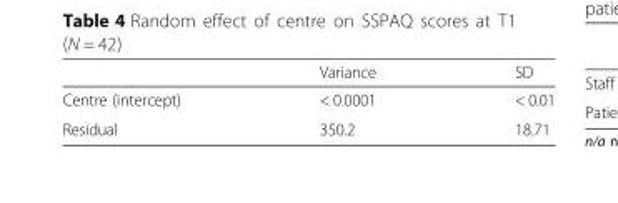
<table><thead><tr><td></td><td>Variance</td><td>SD</td></tr></thead><tbody><tr><td>Centre (intercept)</td><td>&lt; 0.0001</td><td>&lt; 0.01</td></tr><tr><td>Residual</td><td>350.2</td><td>18.71</td></tr></tbody></table>